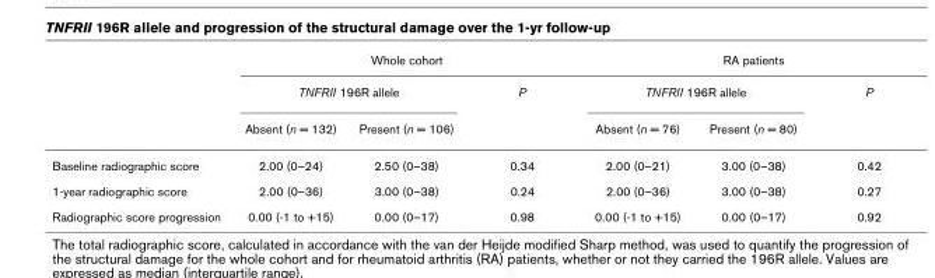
<table><thead><tr><td rowspan="3"></td><td colspan="3">Whole cohort</td><td colspan="3">RA patients</td></tr><tr><td colspan="2">TNFRII 196R allele</td><td rowspan="2">P</td><td colspan="2">TNFRII 196R allele</td><td rowspan="2">P</td></tr><tr><td>Absent (n = 132)</td><td>Present (n = 106)</td><td>Absent (n = 76)</td><td>Present (n = 80)</td></tr></thead><tbody><tr><td>Baseline radiographic score</td><td>2.00 (0–24)</td><td>2.50 (0–38)</td><td>0.34</td><td>2.00 (0–21)</td><td>3.00 (0–38)</td><td>0.42</td></tr><tr><td>1-year radiographic score</td><td>2.00 (0–36)</td><td>3.00 (0–38)</td><td>0.24</td><td>2.00 (0–36)</td><td>3.00 (0–38)</td><td>0.27</td></tr><tr><td>Radiographic score progression</td><td>0.00 (-1 to +15)</td><td>0.00 (0–17)</td><td>0.98</td><td>0.00 (-1 to +15)</td><td>0.00 (0–17)</td><td>0.92</td></tr></tbody></table>